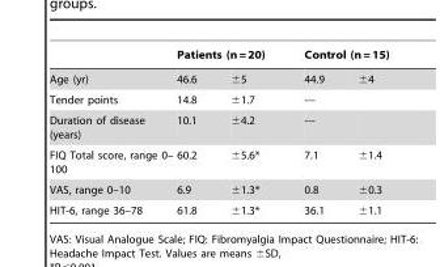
<table><thead><tr><td rowspan="2">Age (yr)</td><td colspan="2">Patients (n = 20)</td><td colspan="2">Control (n = 15)</td></tr><tr><td>46.6</td><td>±5</td><td>44.9</td><td>±4</td></tr></thead><tbody><tr><td>Tender points</td><td>14.8</td><td>±1.7</td><td>---</td><td></td></tr><tr><td>Duration of disease (years)</td><td>10.1</td><td>±4.2</td><td>---</td><td></td></tr><tr><td>FIQ Total score, range 0– 100</td><td>60.2</td><td>±5.6*</td><td>7.1</td><td>±1.4</td></tr><tr><td>VAS, range 0–10</td><td>6.9</td><td>±1.3*</td><td>0.8</td><td>±0.3</td></tr><tr><td>HIT-6, range 36–78</td><td>61.8</td><td>±1.3*</td><td>36.1</td><td>±1.1</td></tr></tbody></table>